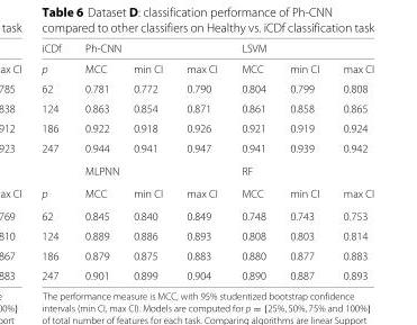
<table><thead><tr><td rowspan="2">iCDf p</td><td colspan="3">Ph-CNN</td><td colspan="3">LSVM</td></tr><tr><td>MCC</td><td>min CI</td><td>max CI</td><td>MCC</td><td>min CI</td><td>max CI</td></tr></thead><tbody><tr><td>62</td><td>0.781</td><td>0.772</td><td>0.790</td><td>0.804</td><td>0.799</td><td>0.808</td></tr><tr><td>124</td><td>0.863</td><td>0.854</td><td>0.871</td><td>0.861</td><td>0.858</td><td>0.865</td></tr><tr><td>186</td><td>0.922</td><td>0.918</td><td>0.926</td><td>0.921</td><td>0.919</td><td>0.924</td></tr><tr><td rowspan="2">247</td><td>0.944</td><td>0.941</td><td>0.947</td><td>0.941</td><td>0.939</td><td>0.942</td></tr><tr><td colspan="3">MLPNN</td><td colspan="3">RF</td></tr><tr><td>p</td><td>MCC</td><td>min CI</td><td>max CI</td><td>MCC</td><td>min CI</td><td>max CI</td></tr><tr><td>62</td><td>0.845</td><td>0.840</td><td>0.849</td><td>0.748</td><td>0.743</td><td>0.753</td></tr><tr><td>124</td><td>0.889</td><td>0.886</td><td>0.893</td><td>0.808</td><td>0.803</td><td>0.814</td></tr><tr><td>186</td><td>0.879</td><td>0.875</td><td>0.883</td><td>0.880</td><td>0.877</td><td>0.883</td></tr><tr><td>247</td><td>0.901</td><td>0.899</td><td>0.904</td><td>0.890</td><td>0.887</td><td>0.893</td></tr></tbody></table>